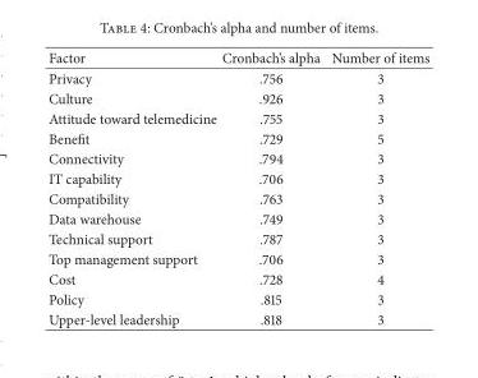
<table><thead><tr><td>Factor</td><td>Cronbach’s alpha</td><td>Number of items</td></tr></thead><tbody><tr><td>Privacy</td><td>.756</td><td>3</td></tr><tr><td>Culture</td><td>.926</td><td>3</td></tr><tr><td>Attitude toward telemedicine</td><td>.755</td><td>3</td></tr><tr><td>Benefit</td><td>.729</td><td>5</td></tr><tr><td>Connectivity</td><td>.794</td><td>3</td></tr><tr><td>IT capability</td><td>.706</td><td>3</td></tr><tr><td>Compatibility</td><td>.763</td><td>3</td></tr><tr><td>Data warehouse</td><td>.749</td><td>3</td></tr><tr><td>Technical support</td><td>.787</td><td>3</td></tr><tr><td>Top management support</td><td>.706</td><td>3</td></tr><tr><td>Cost</td><td>.728</td><td>4</td></tr><tr><td>Policy</td><td>.815</td><td>3</td></tr><tr><td>Upper-level leadership</td><td>.818</td><td>3</td></tr></tbody></table>